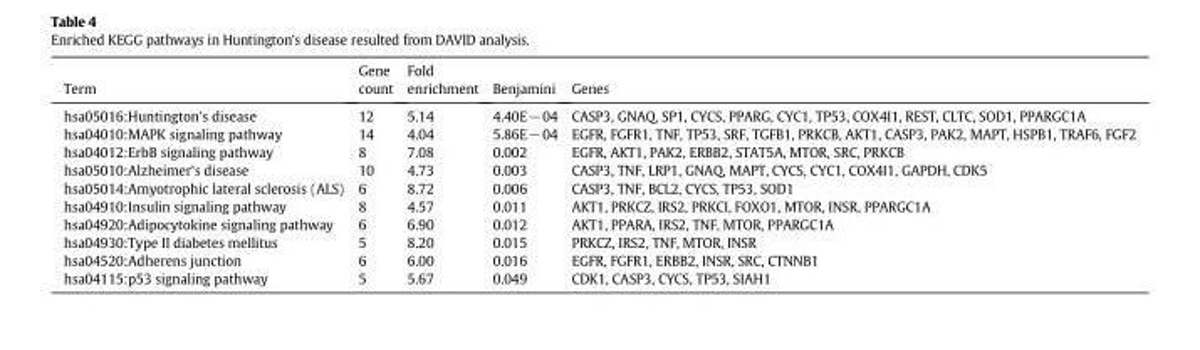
<table><thead><tr><td>Term</td><td>Gene count</td><td>Fold enrichment</td><td>Benjamini</td><td>Genes</td></tr></thead><tbody><tr><td>hsa05016:Huntington&#x27;s disease</td><td>12</td><td>5.14</td><td>4.40E−04</td><td>CASP3, GNAQ, SP1, CYCS, PPARG, CYC1, TP53, COX4I1, REST, CLTC, SOD1, PPARGC1A</td></tr><tr><td>hsa04010:MAPK signaling pathway</td><td>14</td><td>4.04</td><td>5.86E−04</td><td>EGFR, FGFR1, TNF, TP53, SRF, TGFB1, PRKCB, AKT1, CASP3, PAK2, MAPT, HSPB1, TRAF6, FGF2</td></tr><tr><td>hsa04012:ErbB signaling pathway</td><td>8</td><td>7.08</td><td>0.002</td><td>EGFR, AKT1, PAK2, ERBB2, STAT5A, MTOR, SRC, PRKCB</td></tr><tr><td>hsa05010:Alzheimer&#x27;s disease</td><td>10</td><td>4.73</td><td>0.003</td><td>CASP3, TNF, LRP1, GNAQ, MAPT, CYCS, CYC1, COX4I1, GAPDH, CDK5</td></tr><tr><td>hsa05014:Amyotrophic lateral sclerosis (ALS)</td><td>6</td><td>8.72</td><td>0.006</td><td>CASP3, TNF, BCL2, CYCS, TP53, SOD1</td></tr><tr><td>hsa04910:Insulin signaling pathway</td><td>8</td><td>4.57</td><td>0.011</td><td>AKT1, PRKCZ, IRS2, PRKCI, FOXO1, MTOR, INSR, PPARGC1A</td></tr><tr><td>hsa04920:Adipocytokine signaling pathway</td><td>6</td><td>6.90</td><td>0.012</td><td>AKT1, PPARA, IRS2, TNF, MTOR, PPARGC1A</td></tr><tr><td>hsa04930:Type II diabetes mellitus</td><td>5</td><td>8.20</td><td>0.015</td><td>PRKCZ, IRS2, TNF, MTOR, INSR</td></tr><tr><td>hsa04520:Adherens junction</td><td>6</td><td>6.00</td><td>0.016</td><td>EGFR, FGFR1, ERBB2, INSR, SRC, CTNNB1</td></tr><tr><td>hsa04115:p53 signaling pathway</td><td>5</td><td>5.67</td><td>0.049</td><td>CDK1, CASP3, CYCS, TP53, SIAH1</td></tr></tbody></table>